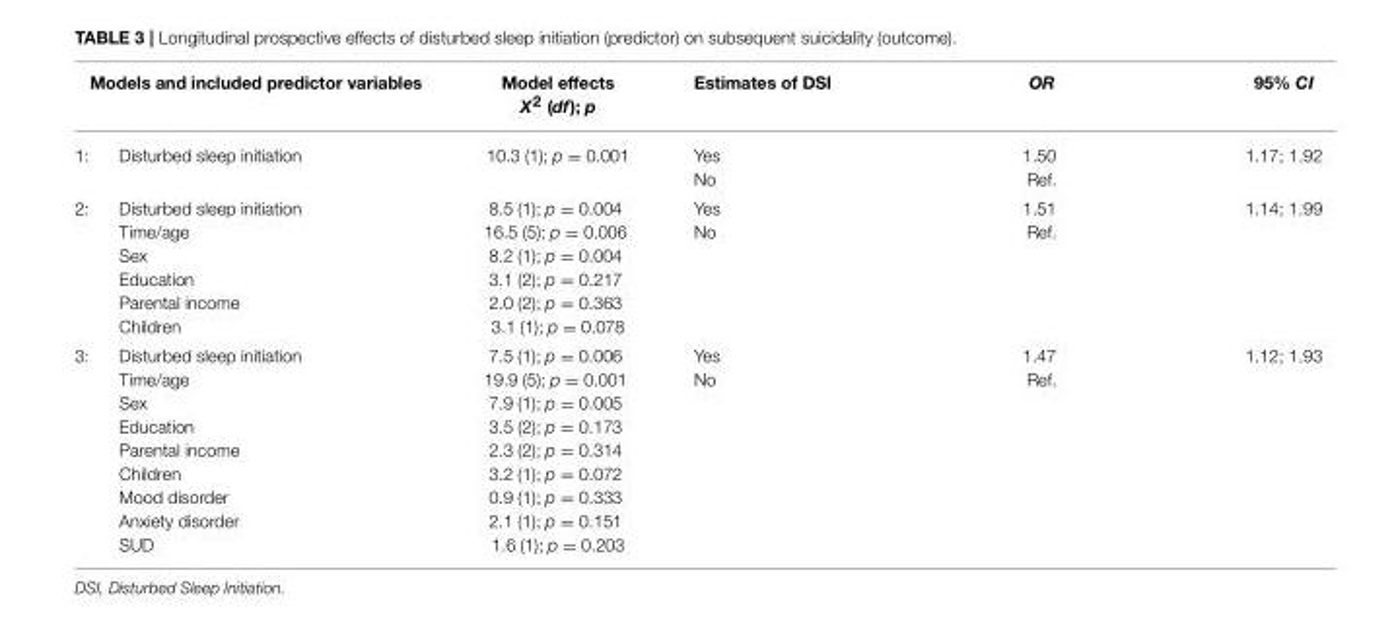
<table><thead><tr><td colspan="2">Models and included predictor variables</td><td rowspan="2">Model effects X<sup>2</sup> (df); p 10.3 (1); p = 0.001</td><td rowspan="2">Estimates of DSI Yes No</td><td rowspan="2">OR 1.50 Ref.</td><td rowspan="2">95% CI 1.17; 1.92</td></tr><tr><td>1:</td><td>Disturbed sleep initiation</td></tr></thead><tbody><tr><td>2:</td><td>Disturbed sleep initiation Time/age Sex Education Parental income Children</td><td>8.5 (1); p = 0.004 16.5 (5); p = 0.006 8.2 (1); p = 0.004 3.1 (2); p = 0.217 2.0 (2); p = 0.363 3.1 (1); p = 0.078</td><td>Yes No</td><td>1.51 Ref.</td><td>1.14; 1.99</td></tr><tr><td>3:</td><td>Disturbed sleep initiation Time/age Sex Education Parental income Children Mood disorder Anxiety disorder SUD</td><td>7.5 (1); p = 0.006 19.9 (5); p = 0.001 7.9 (1); p = 0.005 3.5 (2); p = 0.173 2.3 (2); p = 0.314 3.2 (1); p = 0.072 0.9 (1); p = 0.333 2.1 (1); p = 0.151 1.6 (1); p = 0.203</td><td>Yes No</td><td>1.47 Ref.</td><td>1.12; 1.93</td></tr></tbody></table>